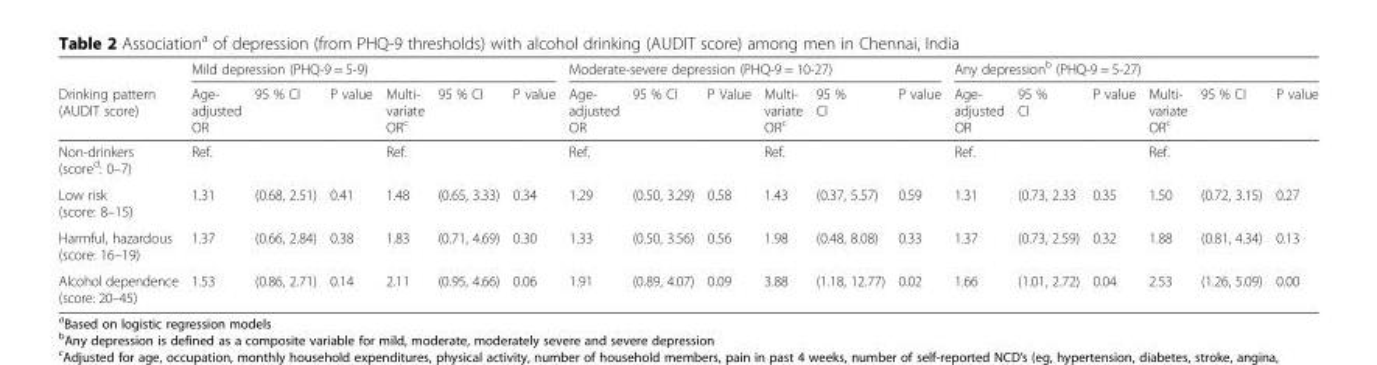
<table><thead><tr><td rowspan="2">Drinking pattern (AUDIT score)</td><td colspan="6">Mild depression (PHQ-9 = 5-9)</td><td colspan="6">Moderate-severe depression (PHQ-9 = 10-27)</td><td colspan="6">Any depression<sup>b</sup> (PHQ-9 = 5-27)</td></tr><tr><td>Age- adjusted OR</td><td>95 % CI</td><td>P value</td><td>Multi- variate OR<sup>c</sup></td><td>95 % CI</td><td>P value</td><td>Age- adjusted OR</td><td>95 % CI</td><td>P Value</td><td>Multi- variate OR<sup>c</sup></td><td>95 % CI</td><td>P value</td><td>Age- adjusted OR</td><td>95 % CI</td><td>P value</td><td>Multi- variate OR<sup>c</sup></td><td>95 % CI</td><td>P value</td></tr></thead><tbody><tr><td>Non-drinkers (score<sup>d</sup>: 0–7)</td><td>Ref.</td><td></td><td></td><td>Ref.</td><td></td><td></td><td>Ref.</td><td></td><td></td><td>Ref.</td><td></td><td></td><td>Ref.</td><td></td><td></td><td>Ref.</td><td></td><td></td></tr><tr><td>Low risk (score: 8–15)</td><td>1.31</td><td>(0.68, 2.51)</td><td>0.41</td><td>1.48</td><td>(0.65, 3.33)</td><td>0.34</td><td>1.29</td><td>(0.50, 3.29)</td><td>0.58</td><td>1.43</td><td>(0.37, 5.57)</td><td>0.59</td><td>1.31</td><td>(0.73, 2.33</td><td>0.35</td><td>1.50</td><td>(0.72, 3.15)</td><td>0.27</td></tr><tr><td>Harmful, hazardous (score: 16–19)</td><td>1.37</td><td>(0.66, 2.84)</td><td>0.38</td><td>1.83</td><td>(0.71, 4.69)</td><td>0.30</td><td>1.33</td><td>(0.50, 3.56)</td><td>0.56</td><td>1.98</td><td>(0.48, 8.08)</td><td>0.33</td><td>1.37</td><td>(0.73, 2.59)</td><td>0.32</td><td>1.88</td><td>(0.81, 4.34)</td><td>0.13</td></tr><tr><td>Alcohol dependence (score: 20–45)</td><td>1.53</td><td>(0.86, 2.71)</td><td>0.14</td><td>2.11</td><td>(0.95, 4.66)</td><td>0.06</td><td>1.91</td><td>(0.89, 4.07)</td><td>0.09</td><td>3.88</td><td>(1.18, 12.77)</td><td>0.02</td><td>1.66</td><td>(1.01, 2.72)</td><td>0.04</td><td>2.53</td><td>(1.26, 5.09)</td><td>0.00</td></tr></tbody></table>